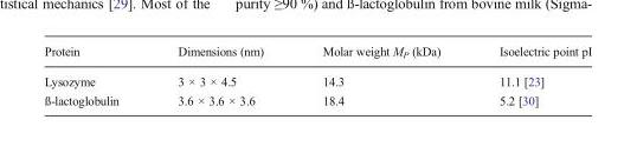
<table><thead><tr><td>Protein</td><td>Dimensions (nm)</td><td>Molar weight M<sub>P</sub> (kDa)</td><td>Isoelectric point pI</td></tr></thead><tbody><tr><td>Lysozyme</td><td>3 × 3 × 4.5</td><td>14.3</td><td>11.1 [23]</td></tr><tr><td>ß-lactoglobulin</td><td>3.6 × 3.6 × 3.6</td><td>18.4</td><td>5.2 [30]</td></tr></tbody></table>